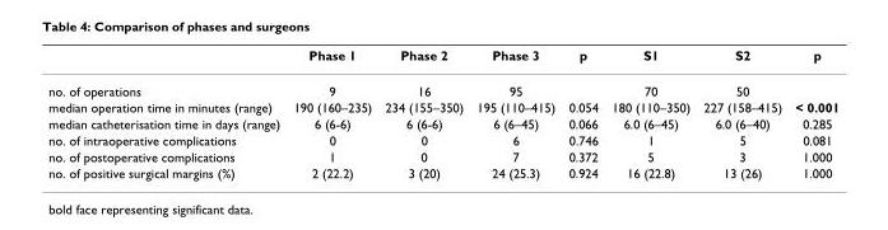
<table><thead><tr><td></td><td>Phase 1</td><td>Phase 2</td><td>Phase 3</td><td>p</td><td>S1</td><td>S2</td><td>p</td></tr></thead><tbody><tr><td>no. of operations</td><td>9</td><td>16</td><td>95</td><td></td><td>70</td><td>50</td><td></td></tr><tr><td>median operation time in minutes (range)</td><td>190 (160–235)</td><td>234 (155–350)</td><td>195 (110–415)</td><td>0.054</td><td>180 (110–350)</td><td>227 (158–415)</td><td>&lt; 0.001</td></tr><tr><td>median catheterisation time in days (range)</td><td>6 (6-6)</td><td>6 (6-6)</td><td>6 (6–45)</td><td>0.066</td><td>6.0 (6–45)</td><td>6.0 (6–40)</td><td>0.285</td></tr><tr><td>no. of intraoperative complications</td><td>0</td><td>0</td><td>6</td><td>0.746</td><td>1</td><td>5</td><td>0.081</td></tr><tr><td>no. of postoperative complications</td><td>1</td><td>0</td><td>7</td><td>0.372</td><td>5</td><td>3</td><td>1.000</td></tr><tr><td>no. of positive surgical margins (%)</td><td>2 (22.2)</td><td>3 (20)</td><td>24 (25.3)</td><td>0.924</td><td>16 (22.8)</td><td>13 (26)</td><td>1.000</td></tr></tbody></table>